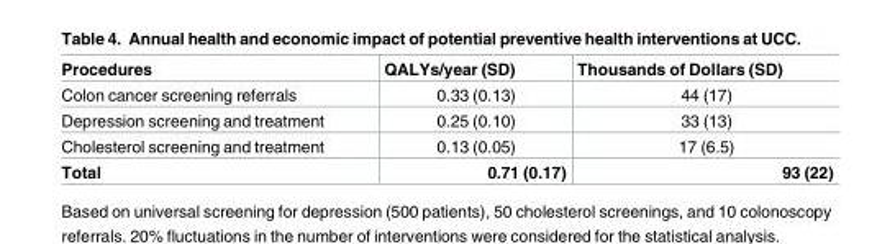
<table><thead><tr><td>Procedures</td><td>QALYs/year (SD)</td><td>Thousands of Dollars (SD)</td></tr></thead><tbody><tr><td>Colon cancer screening referrals</td><td>0.33 (0.13)</td><td>44 (17)</td></tr><tr><td>Depression screening and treatment</td><td>0.25 (0.10)</td><td>33 (13)</td></tr><tr><td>Cholesterol screening and treatment</td><td>0.13 (0.05)</td><td>17 (6.5)</td></tr><tr><td>Total</td><td>0.71 (0.17)</td><td>93 (22)</td></tr></tbody></table>